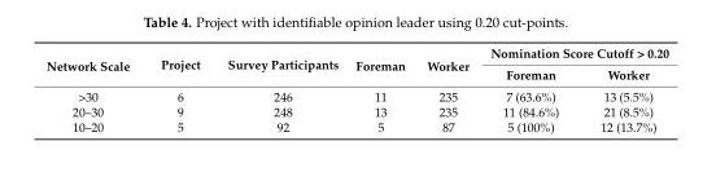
<table><thead><tr><td rowspan="2">Network Scale</td><td rowspan="2">Project</td><td rowspan="2">Survey Participants</td><td rowspan="2">Foreman</td><td rowspan="2">Worker</td><td colspan="2">Nomination Score Cutoff &gt; 0.20</td></tr><tr><td>Foreman</td><td>Worker</td></tr></thead><tbody><tr><td>&gt;30</td><td>6</td><td>246</td><td>11</td><td>235</td><td>7 (63.6%)</td><td>13 (5.5%)</td></tr><tr><td>20–30</td><td>9</td><td>248</td><td>13</td><td>235</td><td>11 (84.6%)</td><td>21 (8.5%)</td></tr><tr><td>10–20</td><td>5</td><td>92</td><td>5</td><td>87</td><td>5 (100%)</td><td>12 (13.7%)</td></tr></tbody></table>